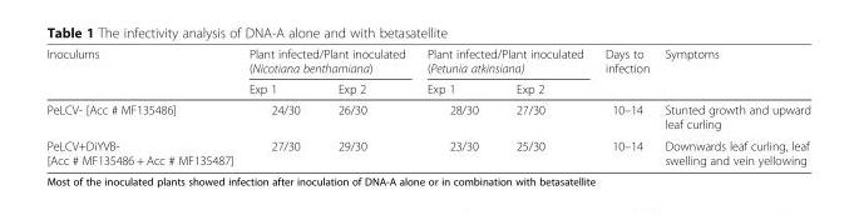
<table><thead><tr><td rowspan="2">Inoculums</td><td colspan="2">Plant infected/Plant inoculated (Nicotiana benthamiana)</td><td colspan="2">Plant infected/Plant inoculated (Petunia atkinsiana)</td><td rowspan="2">Days to infection</td><td rowspan="2">Symptoms</td></tr><tr><td>Exp 1</td><td>Exp 2</td><td>Exp 1</td><td>Exp 2</td></tr></thead><tbody><tr><td>PeLCV- [Acc # MF135486]</td><td>24/30</td><td>26/30</td><td>28/30</td><td>27/30</td><td>10–14</td><td>Stunted growth and upward leaf curling</td></tr><tr><td>PeLCV+DiYVB- [Acc # MF135486 + Acc # MF135487]</td><td>27/30</td><td>29/30</td><td>23/30</td><td>25/30</td><td>10–14</td><td>Downwards leaf curling, leaf swelling and vein yellowing</td></tr></tbody></table>